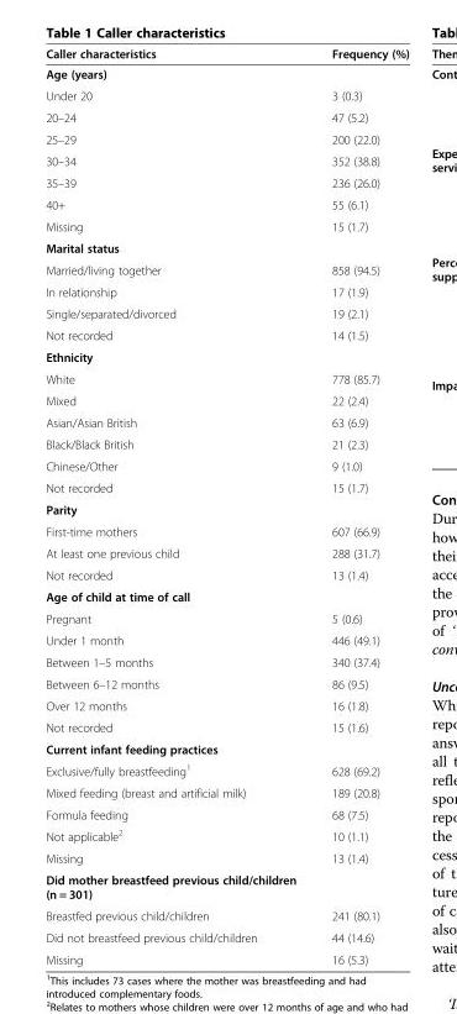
<table><thead><tr><td>Caller characteristics</td><td>Frequency (%)</td></tr></thead><tbody><tr><td colspan="2">Age (years)</td></tr><tr><td>Under 20</td><td>3 (0.3)</td></tr><tr><td>20–24</td><td>47 (5.2)</td></tr><tr><td>25–29</td><td>200 (22.0)</td></tr><tr><td>30–34</td><td>352 (38.8)</td></tr><tr><td>35–39</td><td>236 (26.0)</td></tr><tr><td>40+</td><td>55 (6.1)</td></tr><tr><td>Missing</td><td>15 (1.7)</td></tr><tr><td colspan="2">Marital status</td></tr><tr><td>Married/living together</td><td>858 (94.5)</td></tr><tr><td>In relationship</td><td>17 (1.9)</td></tr><tr><td>Single/separated/divorced</td><td>19 (2.1)</td></tr><tr><td>Not recorded</td><td>14 (1.5)</td></tr><tr><td colspan="2">Ethnicity</td></tr><tr><td>White</td><td>778 (85.7)</td></tr><tr><td>Mixed</td><td>22 (2.4)</td></tr><tr><td>Asian/Asian British</td><td>63 (6.9)</td></tr><tr><td>Black/Black British</td><td>21 (2.3)</td></tr><tr><td>Chinese/Other</td><td>9 (1.0)</td></tr><tr><td>Not recorded</td><td>15 (1.7)</td></tr><tr><td colspan="2">Parity</td></tr><tr><td>First-time mothers</td><td>607 (66.9)</td></tr><tr><td>At least one previous child</td><td>288 (31.7)</td></tr><tr><td>Not recorded</td><td>13 (1.4)</td></tr><tr><td colspan="2">Age of child at time of call</td></tr><tr><td>Pregnant</td><td>5 (0.6)</td></tr><tr><td>Under 1 month</td><td>446 (49.1)</td></tr><tr><td>Between 1–5 months</td><td>340 (37.4)</td></tr><tr><td>Between 6–12 months</td><td>86 (9.5)</td></tr><tr><td>Over 12 months</td><td>16 (1.8)</td></tr><tr><td>Not recorded</td><td>15 (1.6)</td></tr><tr><td colspan="2">Current infant feeding practices</td></tr><tr><td>Exclusive/fully breastfeeding<sup>1</sup></td><td>628 (69.2)</td></tr><tr><td>Mixed feeding (breast and artificial milk)</td><td>189 (20.8)</td></tr><tr><td>Formula feeding</td><td>68 (7.5)</td></tr><tr><td>Not applicable<sup>2</sup></td><td>10 (1.1)</td></tr><tr><td>Missing</td><td>13 (1.4)</td></tr><tr><td colspan="2">Did mother breastfeed previous child/children (n = 301)</td></tr><tr><td>Breastfed previous child/children</td><td>241 (80.1)</td></tr><tr><td>Did not breastfeed previous child/children</td><td>44 (14.6)</td></tr><tr><td>Missing</td><td>16 (5.3)</td></tr></tbody></table>